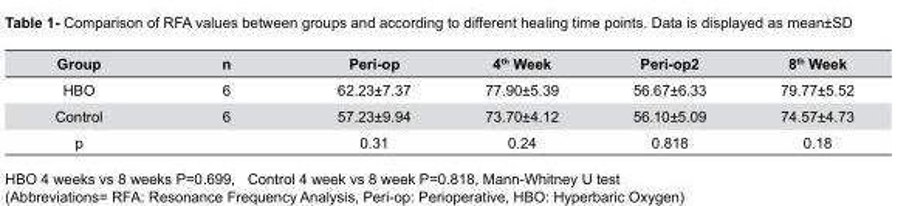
<table><thead><tr><td>Group</td><td>n</td><td>Peri-op</td><td>4<sup>th</sup> Week</td><td>Peri-op2</td><td>8<sup>th</sup> Week</td></tr></thead><tbody><tr><td>HBO</td><td>6</td><td>62.23±7.37</td><td>77.90±5.39</td><td>56.67±6.33</td><td>79.77±5.52</td></tr><tr><td>Control</td><td>6</td><td>57.23±9.94</td><td>73.70±4.12</td><td>56.10±5.09</td><td>74.57±4.73</td></tr><tr><td>p</td><td></td><td>0.31</td><td>0.24</td><td>0.818</td><td>0.18</td></tr></tbody></table>